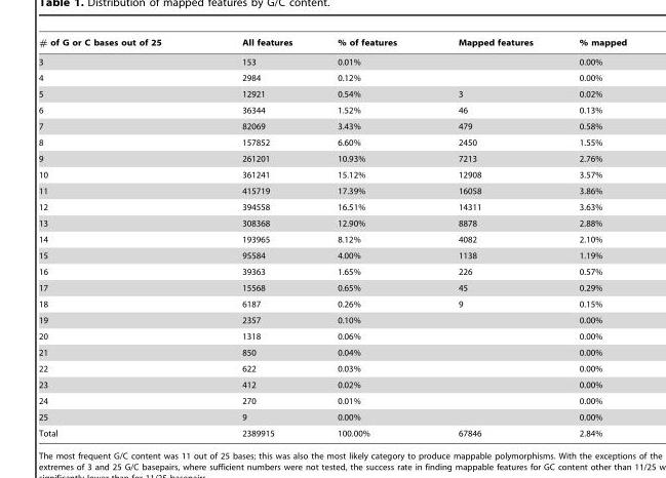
<table><thead><tr><td># of G or C bases out of 25</td><td>All features</td><td>% of features</td><td>Mapped features</td><td>% mapped</td></tr></thead><tbody><tr><td>3</td><td>153</td><td>0.01%</td><td></td><td>0.00%</td></tr><tr><td>4</td><td>2984</td><td>0.12%</td><td></td><td>0.00%</td></tr><tr><td>5</td><td>12921</td><td>0.54%</td><td>3</td><td>0.02%</td></tr><tr><td>6</td><td>36344</td><td>1.52%</td><td>46</td><td>0.13%</td></tr><tr><td>7</td><td>82069</td><td>3.43%</td><td>479</td><td>0.58%</td></tr><tr><td>8</td><td>157852</td><td>6.60%</td><td>2450</td><td>1.55%</td></tr><tr><td>9</td><td>261201</td><td>10.93%</td><td>7213</td><td>2.76%</td></tr><tr><td>10</td><td>361241</td><td>15.12%</td><td>12908</td><td>3.57%</td></tr><tr><td>11</td><td>415719</td><td>17.39%</td><td>16058</td><td>3.86%</td></tr><tr><td>12</td><td>394558</td><td>16.51%</td><td>14311</td><td>3.63%</td></tr><tr><td>13</td><td>308368</td><td>12.90%</td><td>8878</td><td>2.88%</td></tr><tr><td>14</td><td>193965</td><td>8.12%</td><td>4082</td><td>2.10%</td></tr><tr><td>15</td><td>95584</td><td>4.00%</td><td>1138</td><td>1.19%</td></tr><tr><td>16</td><td>39363</td><td>1.65%</td><td>226</td><td>0.57%</td></tr><tr><td>17</td><td>15568</td><td>0.65%</td><td>45</td><td>0.29%</td></tr><tr><td>18</td><td>6187</td><td>0.26%</td><td>9</td><td>0.15%</td></tr><tr><td>19</td><td>2357</td><td>0.10%</td><td></td><td>0.00%</td></tr><tr><td>20</td><td>1318</td><td>0.06%</td><td></td><td>0.00%</td></tr><tr><td>21</td><td>850</td><td>0.04%</td><td></td><td>0.00%</td></tr><tr><td>22</td><td>622</td><td>0.03%</td><td></td><td>0.00%</td></tr><tr><td>23</td><td>412</td><td>0.02%</td><td></td><td>0.00%</td></tr><tr><td>24</td><td>270</td><td>0.01%</td><td></td><td>0.00%</td></tr><tr><td>25</td><td>9</td><td>0.00%</td><td></td><td>0.00%</td></tr><tr><td>Total</td><td>2389915</td><td>100.00%</td><td>67846</td><td>2.84%</td></tr></tbody></table>